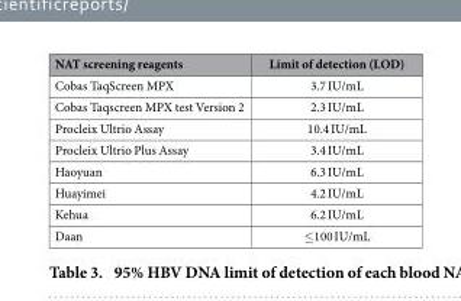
<table><thead><tr><td>NAT screening reagents</td><td>Limit of detection (LOD)</td></tr></thead><tbody><tr><td>Cobas TaqScreen MPX</td><td>3.7 IU/mL</td></tr><tr><td>Cobas Taqscreen MPX test Version 2</td><td>2.3 IU/mL</td></tr><tr><td>Procleix Ultrio Assay</td><td>10.4 IU/mL</td></tr><tr><td>Procleix Ultrio Plus Assay</td><td>3.4 IU/mL</td></tr><tr><td>Haoyuan</td><td>6.3 IU/mL</td></tr><tr><td>Huayimei</td><td>4.2 IU/mL</td></tr><tr><td>Kehua</td><td>6.2 IU/mL</td></tr><tr><td>Daan</td><td>≤ 100 IU/mL</td></tr></tbody></table>